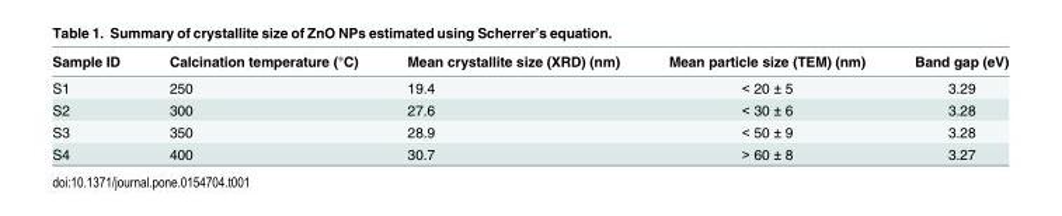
<table><thead><tr><td>Sample ID</td><td>Calcination temperature (°C)</td><td>Mean crystallite size (XRD) (nm)</td><td>Mean particle size (TEM) (nm)</td><td>Band gap (eV)</td></tr></thead><tbody><tr><td>S1</td><td>250</td><td>19.4</td><td>&lt; 20 ± 5</td><td>3.29</td></tr><tr><td>S2</td><td>300</td><td>27.6</td><td>&lt; 30 ± 6</td><td>3.28</td></tr><tr><td>S3</td><td>350</td><td>28.9</td><td>&lt; 50 ± 9</td><td>3.28</td></tr><tr><td>S4</td><td>400</td><td>30.7</td><td>&gt; 60 ± 8</td><td>3.27</td></tr></tbody></table>